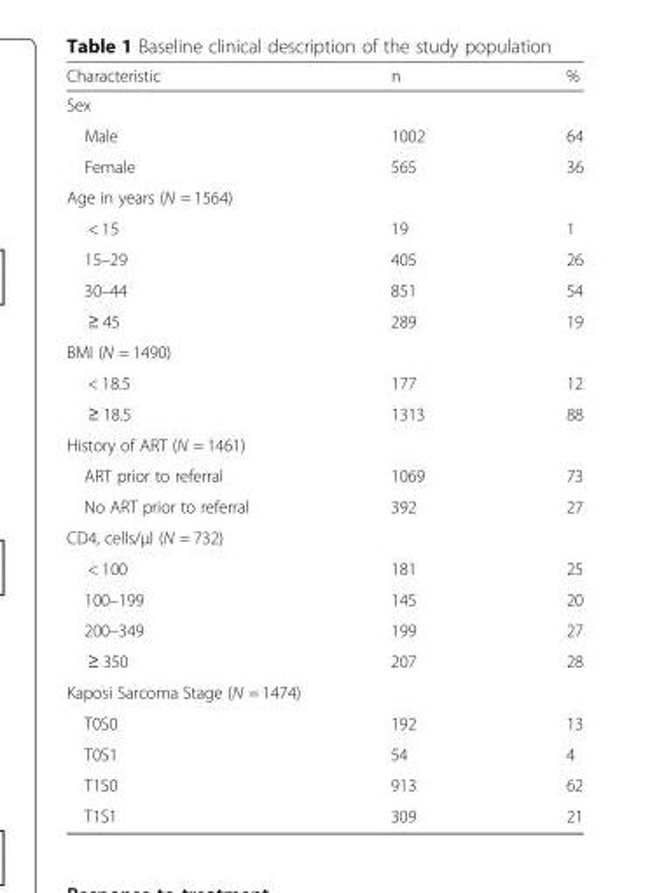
<table><thead><tr><td>Characteristic</td><td>n</td><td>%</td></tr></thead><tbody><tr><td colspan="3">Sex</td></tr><tr><td>Male</td><td>1002</td><td>64</td></tr><tr><td>Female</td><td>565</td><td>36</td></tr><tr><td colspan="3">Age in years (N = 1564)</td></tr><tr><td>&lt; 15</td><td>19</td><td>1</td></tr><tr><td>15–29</td><td>405</td><td>26</td></tr><tr><td>30–44</td><td>851</td><td>54</td></tr><tr><td>≥ 45</td><td>289</td><td>19</td></tr><tr><td colspan="3">BMI (N = 1490)</td></tr><tr><td>&lt; 18.5</td><td>177</td><td>12</td></tr><tr><td>≥ 18.5</td><td>1313</td><td>88</td></tr><tr><td colspan="3">History of ART (N = 1461)</td></tr><tr><td>ART prior to referral</td><td>1069</td><td>73</td></tr><tr><td>No ART prior to referral</td><td>392</td><td>27</td></tr><tr><td colspan="3">CD4, cells/μl (N = 732)</td></tr><tr><td>&lt; 100</td><td>181</td><td>25</td></tr><tr><td>100–199</td><td>145</td><td>20</td></tr><tr><td>200–349</td><td>199</td><td>27</td></tr><tr><td>≥ 350</td><td>207</td><td>28</td></tr><tr><td colspan="3">Kaposi Sarcoma Stage (N = 1474)</td></tr><tr><td>T0S0</td><td>192</td><td>13</td></tr><tr><td>T0S1</td><td>54</td><td>4</td></tr><tr><td>T1S0</td><td>913</td><td>62</td></tr><tr><td>T1S1</td><td>309</td><td>21</td></tr></tbody></table>